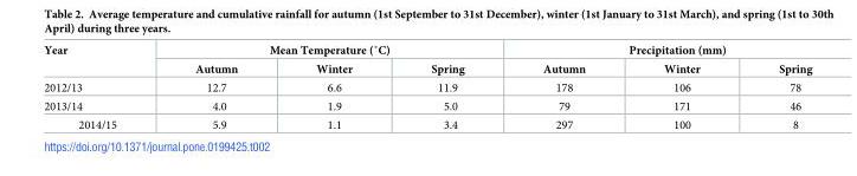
<table><thead><tr><td rowspan="2">Year</td><td colspan="3">Mean Temperature (˚C)</td><td colspan="3">Precipitation (mm)</td></tr><tr><td>Autumn</td><td>Winter</td><td>Spring</td><td>Autumn</td><td>Winter</td><td>Spring</td></tr></thead><tbody><tr><td>2012/13</td><td>12.7</td><td>6.6</td><td>11.9</td><td>178</td><td>106</td><td>78</td></tr><tr><td>2013/14</td><td>4.0</td><td>1.9</td><td>5.0</td><td>79</td><td>171</td><td>46</td></tr><tr><td>2014/15</td><td>5.9</td><td>1.1</td><td>3.4</td><td>297</td><td>100</td><td>8</td></tr></tbody></table>